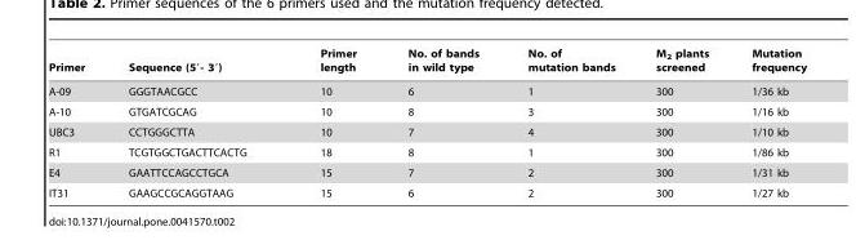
<table><thead><tr><td>Primer</td><td>Sequence (5′- 3′)</td><td>Primer length</td><td>No. of bands in wild type</td><td>No. of mutation bands</td><td>M<sub>2</sub> plants screened</td><td>Mutation frequency</td></tr></thead><tbody><tr><td>A-09</td><td>GGGTAACGCC</td><td>10</td><td>6</td><td>1</td><td>300</td><td>1/36 kb</td></tr><tr><td>A-10</td><td>GTGATCGCAG</td><td>10</td><td>8</td><td>3</td><td>300</td><td>1/16 kb</td></tr><tr><td>UBC3</td><td>CCTGGGCTTA</td><td>10</td><td>7</td><td>4</td><td>300</td><td>1/10 kb</td></tr><tr><td>R1</td><td>TCGTGGCTGACTTCACTG</td><td>18</td><td>8</td><td>1</td><td>300</td><td>1/86 kb</td></tr><tr><td>E4</td><td>GAATTCCAGCCTGCA</td><td>15</td><td>7</td><td>2</td><td>300</td><td>1/31 kb</td></tr><tr><td>IT31</td><td>GAAGCCGCAGGTAAG</td><td>15</td><td>6</td><td>2</td><td>300</td><td>1/27 kb</td></tr></tbody></table>